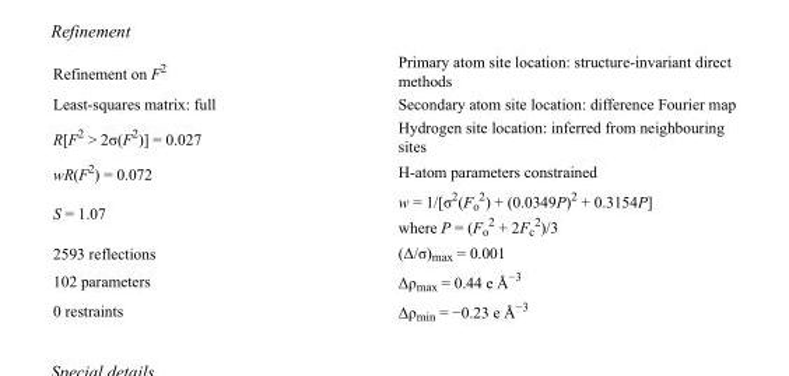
<table><tbody><tr><td>Refinement on F<sup>2</sup></td><td>Primary atom site location: structure-invariant direct methods</td></tr><tr><td>Least-squares matrix: full</td><td>Secondary atom site location: difference Fourier map</td></tr><tr><td>R[F<sup>2</sup> &gt; 2σ(F<sup>2</sup>)] = 0.027</td><td>Hydrogen site location: inferred from neighbouring sites</td></tr><tr><td>wR(F<sup>2</sup>) = 0.072</td><td>H-atom parameters constrained</td></tr><tr><td>S = 1.07</td><td>w = 1/[σ<sup>2</sup>(F<sub>o</sub> <sup>2</sup>) + (0.0349P)<sup>2</sup> + 0.3154P] where P = (F<sub>o</sub> <sup>2</sup> + 2F<sub>c</sub> <sup>2</sup>)/3</td></tr><tr><td>2593 reflections</td><td>(Δ/σ)<sub>max</sub> = 0.001</td></tr><tr><td>102 parameters</td><td>Δρ<sub>max</sub> = 0.44 e Å<sup>−3</sup></td></tr><tr><td>0 restraints</td><td>Δρ<sub>min</sub> = −0.23 e Å<sup>−3</sup></td></tr></tbody></table>